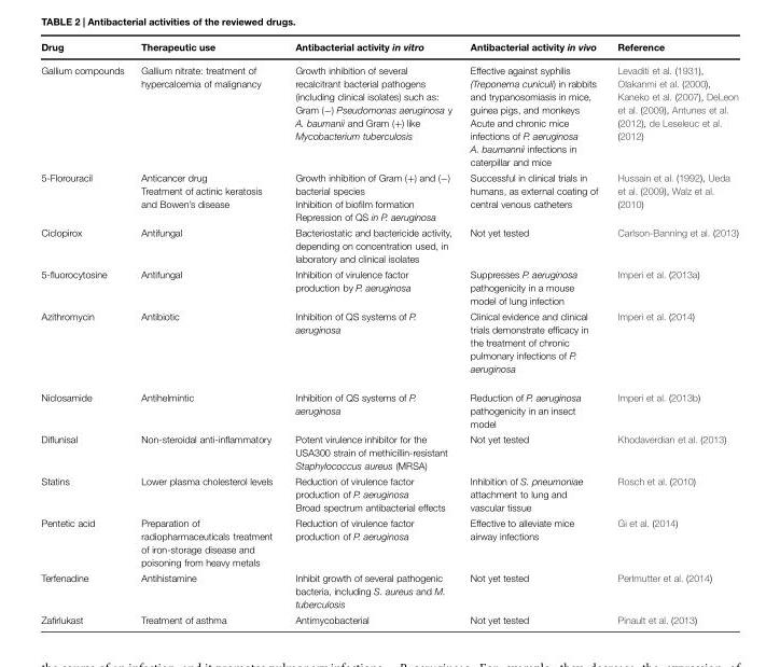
<table><thead><tr><td>Drug</td><td>Therapeutic use</td><td>Antibacterial activity in vitro</td><td>Antibacterial activity in vivo</td><td>Reference</td></tr></thead><tbody><tr><td>Gallium compounds</td><td>Gallium nitrate: treatment of hypercalcemia of malignancy</td><td>Growth inhibition of several recalcitrant bacterial pathogens (including clinical isolates) such as: Gram (−) Pseudomonas aeruginosa y A. baumanii and Gram (+) like Mycobacterium tuberculosis</td><td>Effective against syphilis (Treponema cuniculi) in rabbits and trypanosomiasis in mice, guinea pigs, and monkeys Acute and chronic mice infections of P. aeruginosa A. baumannii infections in caterpillar and mice</td><td>Levaditi et al. (1931), Olakanmi et al. (2000), Kaneko et al. (2007), DeLeon et al. (2009), Antunes et al. (2012), de Leseleuc et al. (2012)</td></tr><tr><td>5-Florouracil</td><td>Anticancer drug Treatment of actinic keratosis and Bowen’s disease</td><td>Growth inhibition of Gram (+) and (−) bacterial species Inhibition of biofilm formation Repression of QS in P. aeruginosa</td><td>Successful in clinical trials in humans, as external coating of central venous catheters</td><td>Hussain et al. (1992), Ueda et al. (2009), Walz et al. (2010)</td></tr><tr><td>Ciclopirox</td><td>Antifungal</td><td>Bacteriostatic and bactericide activity, depending on concentration used, in laboratory and clinical isolates</td><td>Not yet tested</td><td>Carlson-Banning et al. (2013)</td></tr><tr><td>5-fluorocytosine</td><td>Antifungal</td><td>Inhibition of virulence factor production by P. aeruginosa</td><td>Suppresses P. aeruginosa pathogenicity in a mouse model of lung infection</td><td>Imperi et al. (2013a)</td></tr><tr><td>Azithromycin</td><td>Antibiotic</td><td>Inhibition of QS systems of P. aeruginosa</td><td>Clinical evidence and clinical trials demonstrate efficacy in the treatment of chronic pulmonary infections of P. aeruginosa</td><td>Imperi et al. (2014)</td></tr><tr><td>Niclosamide</td><td>Antihelmintic</td><td>Inhibition of QS systems of P. aeruginosa</td><td>Reduction of P. aeruginosa pathogenicity in an insect model</td><td>Imperi et al. (2013b)</td></tr><tr><td>Diflunisal</td><td>Non-steroidal anti-inflammatory</td><td>Potent virulence inhibitor for the USA300 strain of methicillin-resistant Staphylococcus aureus (MRSA)</td><td>Not yet tested</td><td>Khodaverdian et al. (2013)</td></tr><tr><td>Statins</td><td>Lower plasma cholesterol levels</td><td>Reduction of virulence factor production of P. aeruginosa Broad spectrum antibacterial effects</td><td>Inhibition of S. pneumoniae attachment to lung and vascular tissue</td><td>Rosch et al. (2010)</td></tr><tr><td>Pentetic acid</td><td>Preparation of radiopharmaceuticals treatment of iron-storage disease and poisoning from heavy metals</td><td>Reduction of virulence factor production of P. aeruginosa</td><td>Effective to alleviate mice airway infections</td><td>Gi et al. (2014)</td></tr><tr><td>Terfenadine</td><td>Antihistamine</td><td>Inhibit growth of several pathogenic bacteria, including S. aureus and M. tuberculosis</td><td>Not yet tested</td><td>Perlmutter et al. (2014)</td></tr><tr><td>Zafirlukast</td><td>Treatment of asthma</td><td>Antimycobacterial</td><td>Not yet tested</td><td>Pinault et al. (2013)</td></tr></tbody></table>